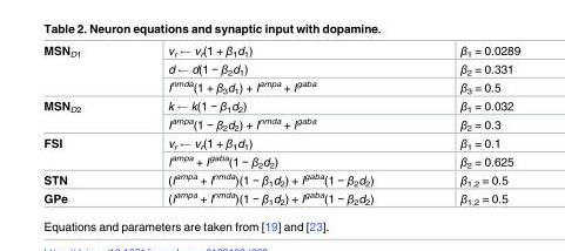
<table><tbody><tr><td rowspan="3">MSN<sub>D1</sub></td><td>vr vr(1 + β1d1)</td><td>β<sub>1</sub> = 0.0289</td></tr><tr><td>d d(1 − β2d1)</td><td>β<sub>2</sub> = 0.331</td></tr><tr><td>I<sup>nmda</sup>(1 + β<sub>3</sub>d<sub>1</sub>) + I<sup>ampa</sup> + I<sup>gaba</sup></td><td>β<sub>3</sub> = 0.5</td></tr><tr><td rowspan="2">MSN<sub>D2</sub></td><td>k k(1 − β1d2)</td><td>β<sub>1</sub> = 0.032</td></tr><tr><td>I<sup>ampa</sup>(1 − β<sub>2</sub>d<sub>2</sub>) + I<sup>nmda</sup> + I<sup>gaba</sup></td><td>β<sub>2</sub> = 0.3</td></tr><tr><td rowspan="2">FSI</td><td>vr vr(1 + β1d1)</td><td>β<sub>1</sub> = 0.1</td></tr><tr><td>I<sup>ampa</sup> + I<sup>gaba</sup>(1 − β<sub>2</sub>d<sub>2</sub>)</td><td>β<sub>2</sub> = 0.625</td></tr><tr><td>STN</td><td>(I<sup>ampa</sup> + I<sup>nmda</sup>)(1 − β<sub>1</sub>d<sub>2</sub>) + I<sup>gaba</sup>(1 − β<sub>2</sub>d<sub>2</sub>)</td><td>β<sub>1,2</sub> = 0.5</td></tr><tr><td>GPe</td><td>(I<sup>ampa</sup> + I<sup>nmda</sup>)(1 − β<sub>1</sub>d<sub>2</sub>) + I<sup>gaba</sup>(1 − β<sub>2</sub>d<sub>2</sub>)</td><td>β<sub>1,2</sub> = 0.5</td></tr></tbody></table>